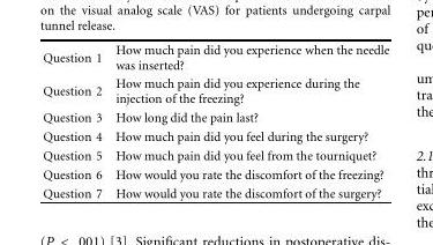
<table><tbody><tr><td>Question 1</td><td>How much pain did you experience when the needle was inserted?</td></tr><tr><td>Question 2</td><td>How much pain did you experience during the injection of the freezing?</td></tr><tr><td>Question 3</td><td>How long did the pain last?</td></tr><tr><td>Question 4</td><td>How much pain did you feel during the surgery?</td></tr><tr><td>Question 5</td><td>How much pain did you feel from the tourniquet?</td></tr><tr><td>Question 6</td><td>How would you rate the discomfort of the freezing?</td></tr><tr><td>Question 7</td><td>How would you rate the discomfort of the surgery?</td></tr></tbody></table>